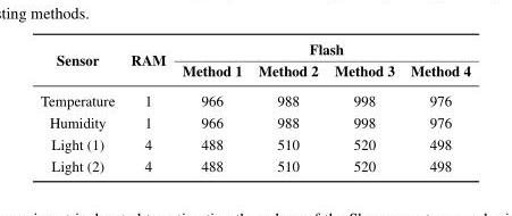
<table><thead><tr><td rowspan="2">Sensor</td><td rowspan="2">RAM</td><td colspan="4">Flash</td></tr><tr><td>Method 1</td><td>Method 2</td><td>Method 3</td><td>Method 4</td></tr></thead><tbody><tr><td>Temperature</td><td>1</td><td>966</td><td>988</td><td>998</td><td>976</td></tr><tr><td>Humidity</td><td>1</td><td>966</td><td>988</td><td>998</td><td>976</td></tr><tr><td>Light (1)</td><td>4</td><td>488</td><td>510</td><td>520</td><td>498</td></tr><tr><td>Light (2)</td><td>4</td><td>488</td><td>510</td><td>520</td><td>498</td></tr></tbody></table>